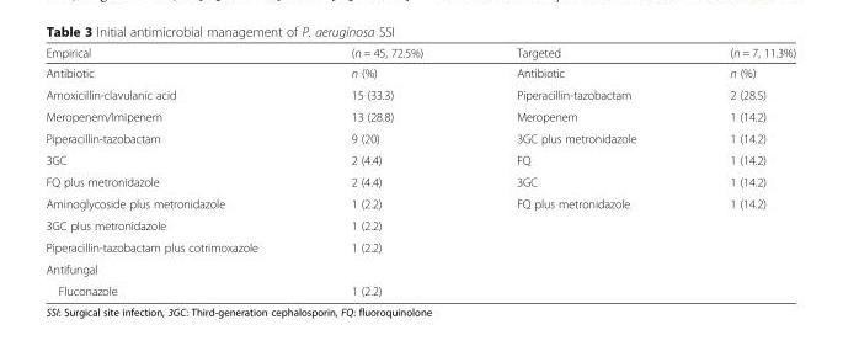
<table><thead><tr><td>Empirical</td><td>(n = 45, 72.5%)</td><td>Targeted</td><td>(n = 7, 11.3%)</td></tr></thead><tbody><tr><td>Antibiotic</td><td>n (%)</td><td>Antibiotic</td><td>n (%)</td></tr><tr><td>Amoxicillin-clavulanic acid</td><td>15 (33.3)</td><td>Piperacillin-tazobactam</td><td>2 (28.5)</td></tr><tr><td>Meropenem/Imipenem</td><td>13 (28.8)</td><td>Meropenem</td><td>1 (14.2)</td></tr><tr><td>Piperacillin-tazobactam</td><td>9 (20)</td><td>3GC plus metronidazole</td><td>1 (14.2)</td></tr><tr><td>3GC</td><td>2 (4.4)</td><td>FQ</td><td>1 (14.2)</td></tr><tr><td>FQ plus metronidazole</td><td>2 (4.4)</td><td>3GC</td><td>1 (14.2)</td></tr><tr><td>Aminoglycoside plus metronidazole</td><td>1 (2.2)</td><td>FQ plus metronidazole</td><td>1 (14.2)</td></tr><tr><td>3GC plus metronidazole</td><td>1 (2.2)</td><td></td><td></td></tr><tr><td>Piperacillin-tazobactam plus cotrimoxazole</td><td>1 (2.2)</td><td></td><td></td></tr><tr><td colspan="4">Antifungal</td></tr><tr><td>Fluconazole</td><td>1 (2.2)</td><td></td><td></td></tr></tbody></table>